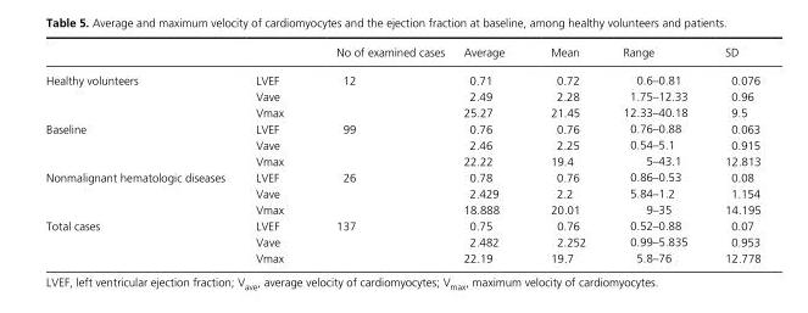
<table><thead><tr><td></td><td></td><td>No of examined cases</td><td>Average</td><td>Mean</td><td>Range</td><td>SD</td></tr></thead><tbody><tr><td rowspan="3">Healthy volunteers</td><td>LVEF</td><td rowspan="3">12</td><td>0.71</td><td>0.72</td><td>0.6–0.81</td><td>0.076</td></tr><tr><td>Vave</td><td>2.49</td><td>2.28</td><td>1.75–12.33</td><td>0.96</td></tr><tr><td>Vmax</td><td>25.27</td><td>21.45</td><td>12.33–40.18</td><td>9.5</td></tr><tr><td rowspan="3">Baseline</td><td>LVEF</td><td rowspan="3">99</td><td>0.76</td><td>0.76</td><td>0.76–0.88</td><td>0.063</td></tr><tr><td>Vave</td><td>2.46</td><td>2.25</td><td>0.54–5.1</td><td>0.915</td></tr><tr><td>Vmax</td><td>22.22</td><td>19.4</td><td>5–43.1</td><td>12.813</td></tr><tr><td rowspan="3">Nonmalignant hematologic diseases</td><td>LVEF</td><td rowspan="3">26</td><td>0.78</td><td>0.76</td><td>0.86–0.53</td><td>0.08</td></tr><tr><td>Vave</td><td>2.429</td><td>2.2</td><td>5.84–1.2</td><td>1.154</td></tr><tr><td>Vmax</td><td>18.888</td><td>20.01</td><td>9–35</td><td>14.195</td></tr><tr><td rowspan="3">Total cases</td><td>LVEF</td><td rowspan="3">137</td><td>0.75</td><td>0.76</td><td>0.52–0.88</td><td>0.07</td></tr><tr><td>Vave</td><td>2.482</td><td>2.252</td><td>0.99–5.835</td><td>0.953</td></tr><tr><td>Vmax</td><td>22.19</td><td>19.7</td><td>5.8–76</td><td>12.778</td></tr></tbody></table>